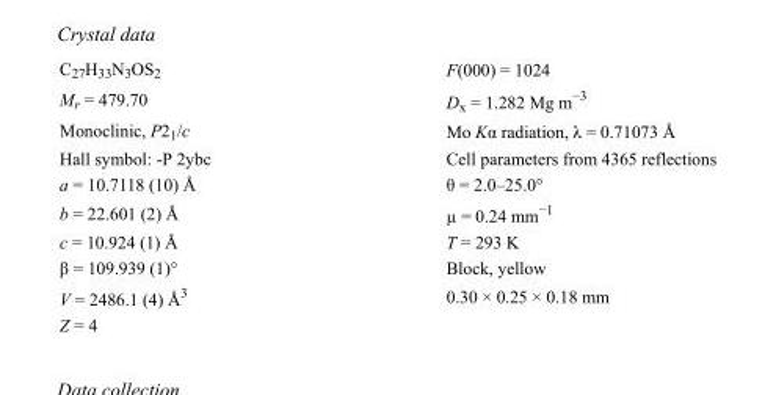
<table><tbody><tr><td>C<sub>27</sub>H<sub>33</sub>N<sub>3</sub>OS<sub>2</sub></td><td>F(000) = 1024</td></tr><tr><td>M<sub>r</sub> = 479.70</td><td>D<sub>x</sub> = 1.282 Mg m<sup>−3</sup></td></tr><tr><td>Monoclinic, P2<sub>1</sub>/c</td><td>Mo Kα radiation, λ = 0.71073 Å</td></tr><tr><td>Hall symbol: -P 2ybc</td><td>Cell parameters from 4365 reflections</td></tr><tr><td>a = 10.7118 (10) Å</td><td>θ = 2.0–25.0°</td></tr><tr><td>b = 22.601 (2) Å</td><td>µ = 0.24 mm<sup>−1</sup></td></tr><tr><td>c = 10.924 (1) Å</td><td>T = 293 K</td></tr><tr><td>β = 109.939 (1)°</td><td>Block, yellow</td></tr><tr><td>V = 2486.1 (4) Å<sup>3</sup></td><td>0.30 × 0.25 × 0.18 mm</td></tr><tr><td>Z = 4</td><td></td></tr></tbody></table>